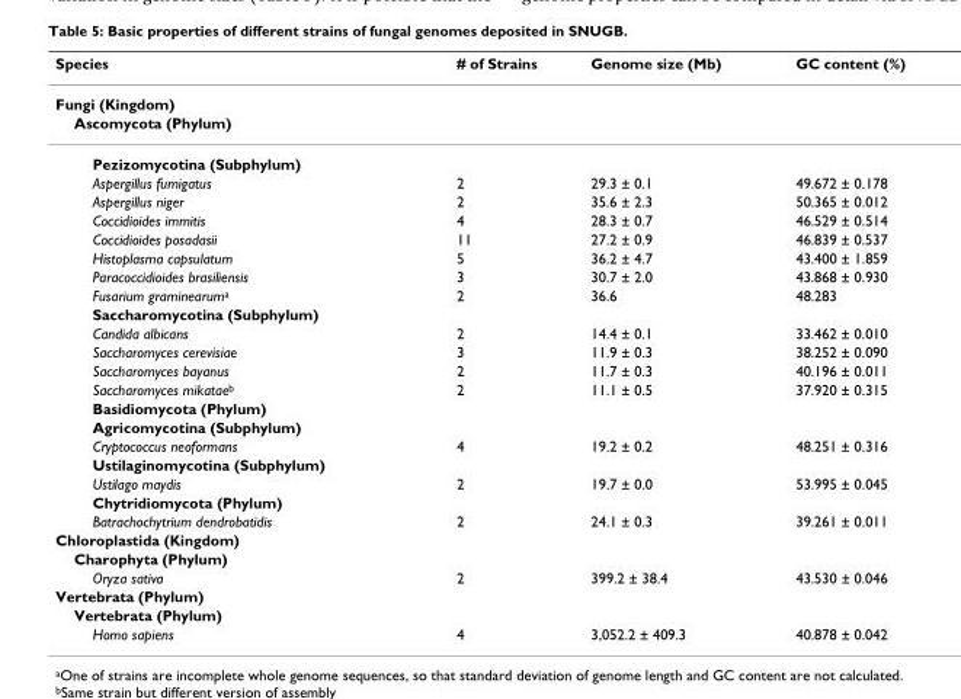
<table><thead><tr><td>Species</td><td># of Strains</td><td>Genome size (Mb)</td><td>GC content (%)</td></tr></thead><tbody><tr><td colspan="4">Fungi (Kingdom)</td></tr><tr><td colspan="4">Ascomycota (Phylum)</td></tr><tr><td colspan="4">Pezizomycotina (Subphylum)</td></tr><tr><td>Aspergillus fumigatus</td><td>2</td><td>29.3 ± 0.1</td><td>49.672 ± 0.178</td></tr><tr><td>Aspergillus niger</td><td>2</td><td>35.6 ± 2.3</td><td>50.365 ± 0.012</td></tr><tr><td>Coccidioides immitis</td><td>4</td><td>28.3 ± 0.7</td><td>46.529 ± 0.514</td></tr><tr><td>Coccidioides posadasii</td><td>11</td><td>27.2 ± 0.9</td><td>46.839 ± 0.537</td></tr><tr><td>Histoplasma capsulatum</td><td>5</td><td>36.2 ± 4.7</td><td>43.400 ± 1.859</td></tr><tr><td>Paracoccidioides brasiliensis</td><td>3</td><td>30.7 ± 2.0</td><td>43.868 ± 0.930</td></tr><tr><td>Fusarium graminearum<sup>a</sup></td><td>2</td><td>36.6</td><td>48.283</td></tr><tr><td colspan="4">Saccharomycotina (Subphylum)</td></tr><tr><td>Candida albicans</td><td>2</td><td>14.4 ± 0.1</td><td>33.462 ± 0.010</td></tr><tr><td>Saccharomyces cerevisiae</td><td>3</td><td>11.9 ± 0.3</td><td>38.252 ± 0.090</td></tr><tr><td>Saccharomyces bayanus</td><td>2</td><td>11.7 ± 0.3</td><td>40.196 ± 0.011</td></tr><tr><td>Saccharomyces mikatae<sup>b</sup></td><td>2</td><td>11.1 ± 0.5</td><td>37.920 ± 0.315</td></tr><tr><td colspan="4">Basidiomycota (Phylum)</td></tr><tr><td colspan="4">Agricomycotina (Subphylum)</td></tr><tr><td>Cryptococcus neoformans</td><td>4</td><td>19.2 ± 0.2</td><td>48.251 ± 0.316</td></tr><tr><td colspan="4">Ustilaginomycotina (Subphylum)</td></tr><tr><td>Ustilago maydis</td><td>2</td><td>19.7 ± 0.0</td><td>53.995 ± 0.045</td></tr><tr><td colspan="4">Chytridiomycota (Phylum)</td></tr><tr><td>Batrachochytrium dendrobatidis</td><td>2</td><td>24.1 ± 0.3</td><td>39.261 ± 0.011</td></tr><tr><td colspan="4">Chloroplastida (Kingdom)</td></tr><tr><td colspan="4">Charophyta (Phylum)</td></tr><tr><td>Oryza sativa</td><td>2</td><td>399.2 ± 38.4</td><td>43.530 ± 0.046</td></tr><tr><td colspan="4">Vertebrata (Phylum)</td></tr><tr><td colspan="4">Vertebrata (Phylum)</td></tr><tr><td>Homo sapiens</td><td>4</td><td>3,052.2 ± 409.3</td><td>40.878 ± 0.042</td></tr></tbody></table>